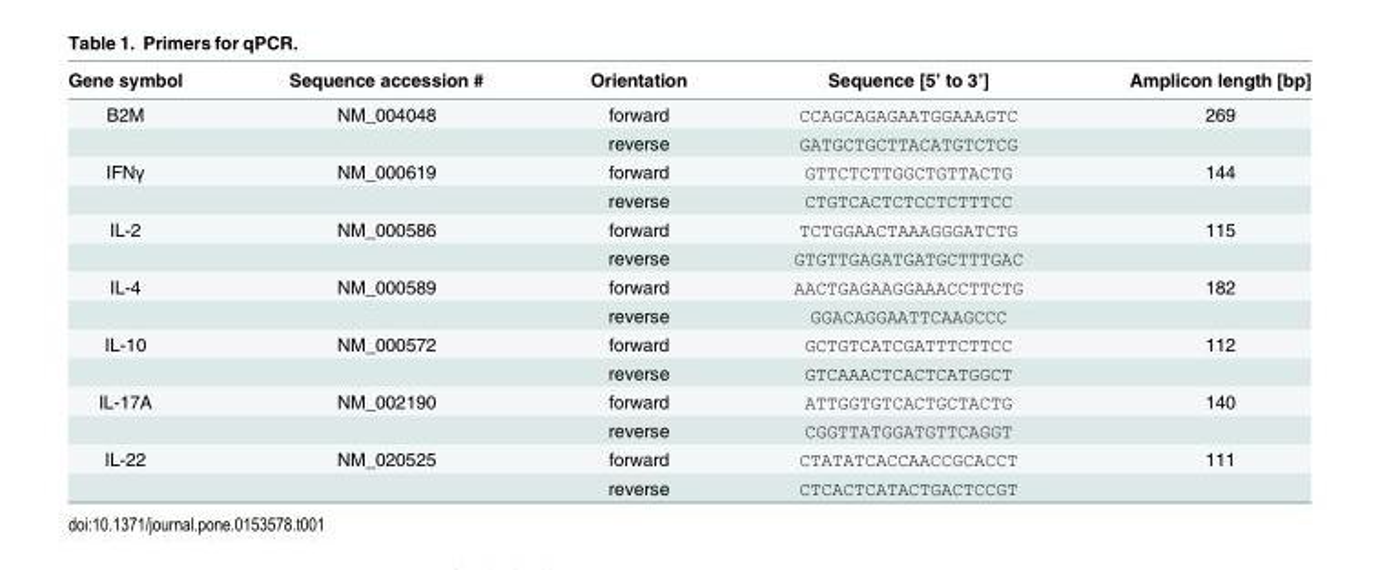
<table><thead><tr><td>Gene symbol</td><td>Sequence accession #</td><td>Orientation</td><td>Sequence [5’ to 3’]</td><td>Amplicon length [bp]</td></tr></thead><tbody><tr><td rowspan="2">B2M</td><td>NM_004048</td><td>forward</td><td>CCAGCAGAGAATGGAAAGTC</td><td>269</td></tr><tr><td></td><td>reverse</td><td>GATGCTGCTTACATGTCTCG</td><td></td></tr><tr><td rowspan="2">IFNγ</td><td>NM_000619</td><td>forward</td><td>GTTCTCTTGGCTGTTACTG</td><td>144</td></tr><tr><td></td><td>reverse</td><td>CTGTCACTCTCCTCTTTCC</td><td></td></tr><tr><td rowspan="2">IL-2</td><td>NM_000586</td><td>forward</td><td>TCTGGAACTAAAGGGATCTG</td><td>115</td></tr><tr><td></td><td>reverse</td><td>GTGTTGAGATGATGCTTTGAC</td><td></td></tr><tr><td rowspan="2">IL-4</td><td>NM_000589</td><td>forward</td><td>AACTGAGAAGGAAACCTTCTG</td><td>182</td></tr><tr><td></td><td>reverse</td><td>GGACAGGAATTCAAGCCC</td><td></td></tr><tr><td rowspan="2">IL-10</td><td>NM_000572</td><td>forward</td><td>GCTGTCATCGATTTCTTCC</td><td>112</td></tr><tr><td></td><td>reverse</td><td>GTCAAACTCACTCATGGCT</td><td></td></tr><tr><td rowspan="2">IL-17A</td><td>NM_002190</td><td>forward</td><td>ATTGGTGTCACTGCTACTG</td><td>140</td></tr><tr><td></td><td>reverse</td><td>CGGTTATGGATGTTCAGGT</td><td></td></tr><tr><td rowspan="2">IL-22</td><td>NM_020525</td><td>forward</td><td>CTATATCACCAACCGCACCT</td><td>111</td></tr><tr><td></td><td>reverse</td><td>CTCACTCATACTGACTCCGT</td><td></td></tr></tbody></table>